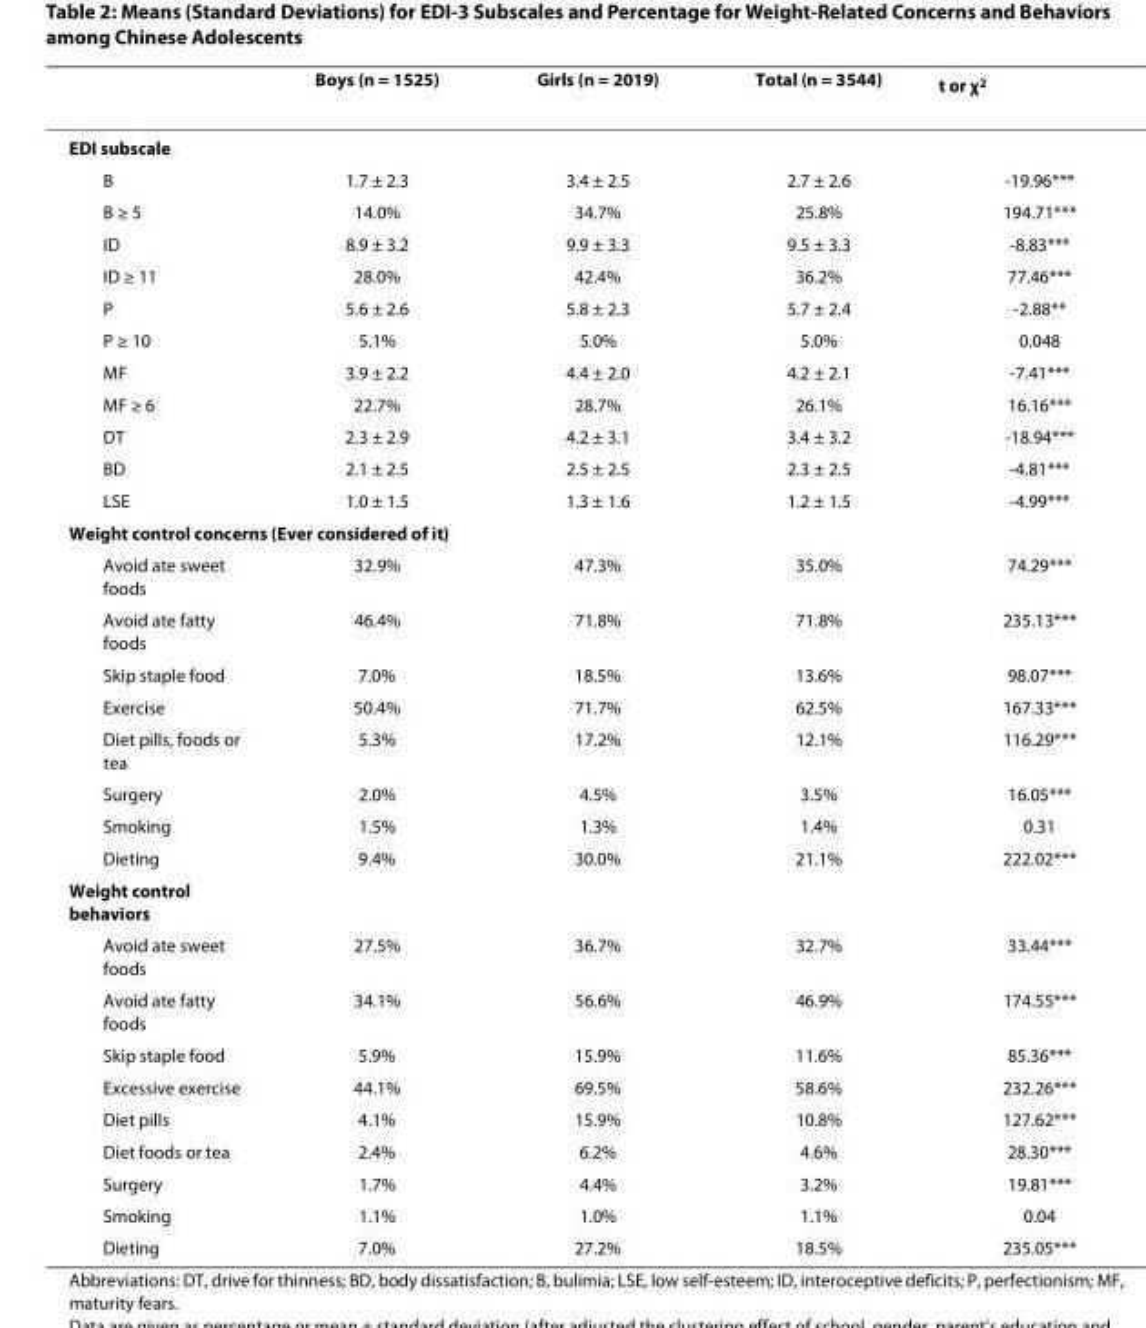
<table><thead><tr><td></td><td>Boys (n = 1525)</td><td>Girls (n = 2019)</td><td>Total (n = 3544)</td><td>t or χ<sup>2</sup></td></tr></thead><tbody><tr><td colspan="5">EDI subscale</td></tr><tr><td>B</td><td>1.7 ± 2.3</td><td>3.4 ± 2.5</td><td>2.7 ± 2.6</td><td>-19.96***</td></tr><tr><td>B ≥ 5</td><td>14.0%</td><td>34.7%</td><td>25.8%</td><td>194.71***</td></tr><tr><td>ID</td><td>8.9 ± 3.2</td><td>9.9 ± 3.3</td><td>9.5 ± 3.3</td><td>-8.83***</td></tr><tr><td>ID ≥ 11</td><td>28.0%</td><td>42.4%</td><td>36.2%</td><td>77.46***</td></tr><tr><td>P</td><td>5.6 ± 2.6</td><td>5.8 ± 2.3</td><td>5.7 ± 2.4</td><td>-2.88**</td></tr><tr><td>P ≥ 10</td><td>5.1%</td><td>5.0%</td><td>5.0%</td><td>0.048</td></tr><tr><td>MF</td><td>3.9 ± 2.2</td><td>4.4 ± 2.0</td><td>4.2 ± 2.1</td><td>-7.41***</td></tr><tr><td>MF ≥ 6</td><td>22.7%</td><td>28.7%</td><td>26.1%</td><td>16.16***</td></tr><tr><td>DT</td><td>2.3 ± 2.9</td><td>4.2 ± 3.1</td><td>3.4 ± 3.2</td><td>-18.94***</td></tr><tr><td>BD</td><td>2.1 ± 2.5</td><td>2.5 ± 2.5</td><td>2.3 ± 2.5</td><td>-4.81***</td></tr><tr><td>LSE</td><td>1.0 ± 1.5</td><td>1.3 ± 1.6</td><td>1.2 ± 1.5</td><td>-4.99***</td></tr><tr><td colspan="5">Weight control concerns (Ever considered of it)</td></tr><tr><td>Avoid ate sweet foods</td><td>32.9%</td><td>47.3%</td><td>35.0%</td><td>74.29***</td></tr><tr><td>Avoid ate fatty foods</td><td>46.4%</td><td>71.8%</td><td>71.8%</td><td>235.13***</td></tr><tr><td>Skip staple food</td><td>7.0%</td><td>18.5%</td><td>13.6%</td><td>98.07***</td></tr><tr><td>Exercise</td><td>50.4%</td><td>71.7%</td><td>62.5%</td><td>167.33***</td></tr><tr><td>Diet pills, foods or tea</td><td>5.3%</td><td>17.2%</td><td>12.1%</td><td>116.29***</td></tr><tr><td>Surgery</td><td>2.0%</td><td>4.5%</td><td>3.5%</td><td>16.05***</td></tr><tr><td>Smoking</td><td>1.5%</td><td>1.3%</td><td>1.4%</td><td>0.31</td></tr><tr><td>Dieting</td><td>9.4%</td><td>30.0%</td><td>21.1%</td><td>222.02***</td></tr><tr><td colspan="5">Weight control behaviors</td></tr><tr><td>Avoid ate sweet foods</td><td>27.5%</td><td>36.7%</td><td>32.7%</td><td>33.44***</td></tr><tr><td>Avoid ate fatty foods</td><td>34.1%</td><td>56.6%</td><td>46.9%</td><td>174.55***</td></tr><tr><td>Skip staple food</td><td>5.9%</td><td>15.9%</td><td>11.6%</td><td>85.36***</td></tr><tr><td>Excessive exercise</td><td>44.1%</td><td>69.5%</td><td>58.6%</td><td>232.26***</td></tr><tr><td>Diet pills</td><td>4.1%</td><td>15.9%</td><td>10.8%</td><td>127.62***</td></tr><tr><td>Diet foods or tea</td><td>2.4%</td><td>6.2%</td><td>4.6%</td><td>28.30***</td></tr><tr><td>Surgery</td><td>1.7%</td><td>4.4%</td><td>3.2%</td><td>19.81***</td></tr><tr><td>Smoking</td><td>1.1%</td><td>1.0%</td><td>1.1%</td><td>0.04</td></tr><tr><td>Dieting</td><td>7.0%</td><td>27.2%</td><td>18.5%</td><td>235.05***</td></tr></tbody></table>